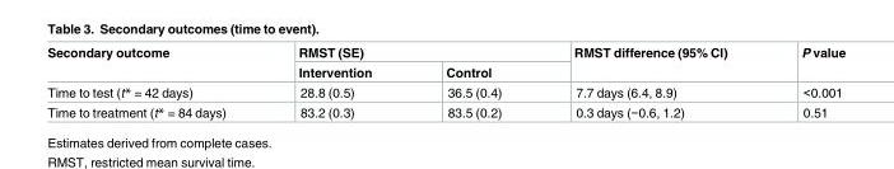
<table><thead><tr><td rowspan="2">Secondary outcome</td><td colspan="2">RMST (SE)</td><td rowspan="2">RMST difference (95% CI)</td><td rowspan="2">P value</td></tr><tr><td>Intervention</td><td>Control</td></tr></thead><tbody><tr><td>Time to test (t* = 42 days)</td><td>28.8 (0.5)</td><td>36.5 (0.4)</td><td>7.7 days (6.4, 8.9)</td><td>&lt;0.001</td></tr><tr><td>Time to treatment (t* = 84 days)</td><td>83.2 (0.3)</td><td>83.5 (0.2)</td><td>0.3 days (−0.6, 1.2)</td><td>0.51</td></tr></tbody></table>